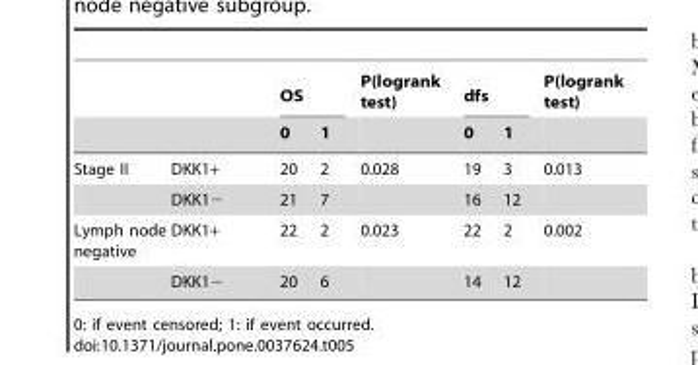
<table><thead><tr><td rowspan="2"></td><td rowspan="2"></td><td colspan="2">OS</td><td rowspan="2">P(logrank test)</td><td colspan="2">dfs</td><td rowspan="2">P(logrank test)</td></tr><tr><td>0</td><td>1</td><td>0</td><td>1</td></tr></thead><tbody><tr><td rowspan="2">Stage II</td><td>DKK1+</td><td>20</td><td>2</td><td>0.028</td><td>19</td><td>3</td><td>0.013</td></tr><tr><td>DKK1−</td><td>21</td><td>7</td><td></td><td>16</td><td>12</td><td></td></tr><tr><td rowspan="2">Lymph node negative</td><td>DKK1+</td><td>22</td><td>2</td><td>0.023</td><td>22</td><td>2</td><td>0.002</td></tr><tr><td>DKK1−</td><td>20</td><td>6</td><td></td><td>14</td><td>12</td><td></td></tr></tbody></table>